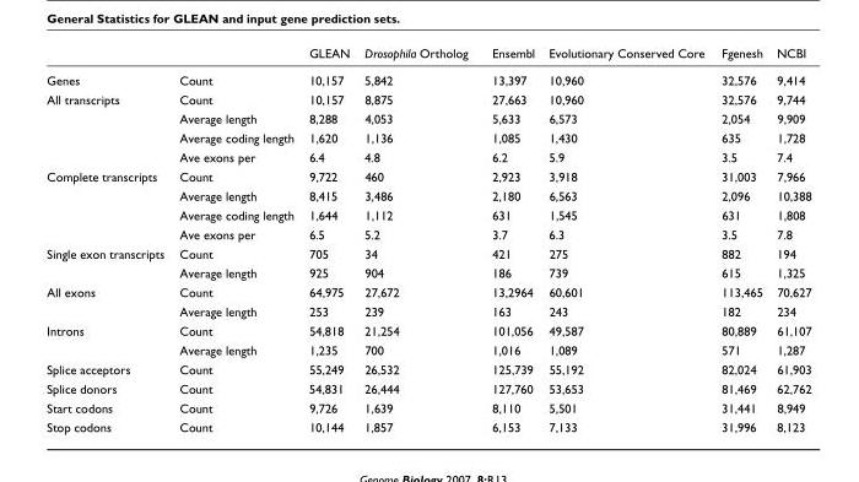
<table><thead><tr><td></td><td></td><td>GLEAN</td><td>Drosophila Ortholog</td><td>Ensembl</td><td>Evolutionary Conserved Core</td><td>Fgenesh</td><td>NCBI</td></tr></thead><tbody><tr><td>Genes</td><td>Count</td><td>10,157</td><td>5,842</td><td>13,397</td><td>10,960</td><td>32,576</td><td>9,414</td></tr><tr><td rowspan="4">All transcripts</td><td>Count</td><td>10,157</td><td>8,875</td><td>27,663</td><td>10,960</td><td>32,576</td><td>9,744</td></tr><tr><td>Average length</td><td>8,288</td><td>4,053</td><td>5,633</td><td>6,573</td><td>2,054</td><td>9,909</td></tr><tr><td>Average coding length</td><td>1,620</td><td>1,136</td><td>1,085</td><td>1,430</td><td>635</td><td>1,728</td></tr><tr><td>Ave exons per</td><td>6.4</td><td>4.8</td><td>6.2</td><td>5.9</td><td>3.5</td><td>7.4</td></tr><tr><td rowspan="4">Complete transcripts</td><td>Count</td><td>9,722</td><td>460</td><td>2,923</td><td>3,918</td><td>31,003</td><td>7,966</td></tr><tr><td>Average length</td><td>8,415</td><td>3,486</td><td>2,180</td><td>6,563</td><td>2,096</td><td>10,388</td></tr><tr><td>Average coding length</td><td>1,644</td><td>1,112</td><td>631</td><td>1,545</td><td>631</td><td>1,808</td></tr><tr><td>Ave exons per</td><td>6.5</td><td>5.2</td><td>3.7</td><td>6.3</td><td>3.5</td><td>7.8</td></tr><tr><td rowspan="2">Single exon transcripts</td><td>Count</td><td>705</td><td>34</td><td>421</td><td>275</td><td>882</td><td>194</td></tr><tr><td>Average length</td><td>925</td><td>904</td><td>186</td><td>739</td><td>615</td><td>1,325</td></tr><tr><td rowspan="2">All exons</td><td>Count</td><td>64,975</td><td>27,672</td><td>13,2964</td><td>60,601</td><td>113,465</td><td>70,627</td></tr><tr><td>Average length</td><td>253</td><td>239</td><td>163</td><td>243</td><td>182</td><td>234</td></tr><tr><td rowspan="2">Introns</td><td>Count</td><td>54,818</td><td>21,254</td><td>101,056</td><td>49,587</td><td>80,889</td><td>61,107</td></tr><tr><td>Average length</td><td>1,235</td><td>700</td><td>1,016</td><td>1,089</td><td>571</td><td>1,287</td></tr><tr><td>Splice acceptors</td><td>Count</td><td>55,249</td><td>26,532</td><td>125,739</td><td>55,192</td><td>82,024</td><td>61,903</td></tr><tr><td>Splice donors</td><td>Count</td><td>54,831</td><td>26,444</td><td>127,760</td><td>53,653</td><td>81,469</td><td>62,762</td></tr><tr><td>Start codons</td><td>Count</td><td>9,726</td><td>1,639</td><td>8,110</td><td>5,501</td><td>31,441</td><td>8,949</td></tr><tr><td>Stop codons</td><td>Count</td><td>10,144</td><td>1,857</td><td>6,153</td><td>7,133</td><td>31,996</td><td>8,123</td></tr></tbody></table>